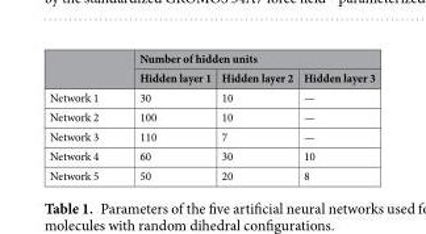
<table><thead><tr><td rowspan="2"></td><td colspan="3">Number of hidden units</td></tr><tr><td>Hidden layer 1</td><td>Hidden layer 2</td><td>Hidden layer 3</td></tr></thead><tbody><tr><td>Network 1</td><td>30</td><td>10</td><td>—</td></tr><tr><td>Network 2</td><td>100</td><td>10</td><td>—</td></tr><tr><td>Network 3</td><td>110</td><td>7</td><td>—</td></tr><tr><td>Network 4</td><td>60</td><td>30</td><td>10</td></tr><tr><td>Network 5</td><td>50</td><td>20</td><td>8</td></tr></tbody></table>